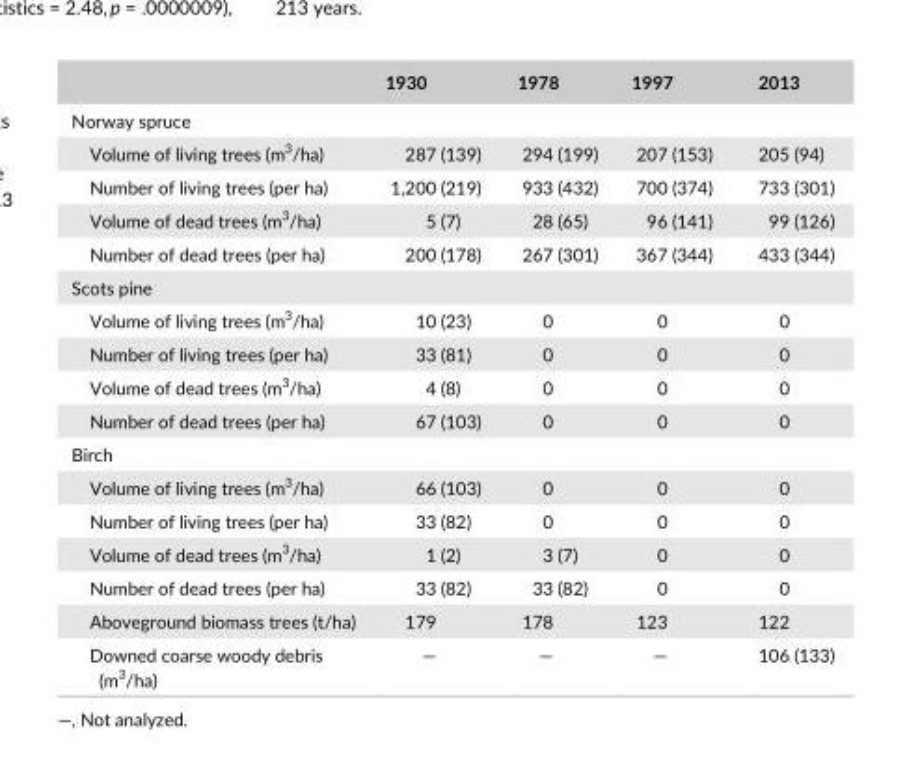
<table><thead><tr><td></td><td>1930</td><td>1978</td><td>1997</td><td>2013</td></tr></thead><tbody><tr><td colspan="5">Norway spruce</td></tr><tr><td>Volume of living trees (m<sup>3</sup>/ha)</td><td>287 (139)</td><td>294 (199)</td><td>207 (153)</td><td>205 (94)</td></tr><tr><td>Number of living trees (per ha)</td><td>1,200 (219)</td><td>933 (432)</td><td>700 (374)</td><td>733 (301)</td></tr><tr><td>Volume of dead trees (m<sup>3</sup>/ha)</td><td>5 (7)</td><td>28 (65)</td><td>96 (141)</td><td>99 (126)</td></tr><tr><td>Number of dead trees (per ha)</td><td>200 (178)</td><td>267 (301)</td><td>367 (344)</td><td>433 (344)</td></tr><tr><td colspan="5">Scots pine</td></tr><tr><td>Volume of living trees (m<sup>3</sup>/ha)</td><td>10 (23)</td><td>0</td><td>0</td><td>0</td></tr><tr><td>Number of living trees (per ha)</td><td>33 (81)</td><td>0</td><td>0</td><td>0</td></tr><tr><td>Volume of dead trees (m<sup>3</sup>/ha)</td><td>4 (8)</td><td>0</td><td>0</td><td>0</td></tr><tr><td>Number of dead trees (per ha)</td><td>67 (103)</td><td>0</td><td>0</td><td>0</td></tr><tr><td colspan="5">Birch</td></tr><tr><td>Volume of living trees (m<sup>3</sup>/ha)</td><td>66 (103)</td><td>0</td><td>0</td><td>0</td></tr><tr><td>Number of living trees (per ha)</td><td>33 (82)</td><td>0</td><td>0</td><td>0</td></tr><tr><td>Volume of dead trees (m<sup>3</sup>/ha)</td><td>1 (2)</td><td>3 (7)</td><td>0</td><td>0</td></tr><tr><td>Number of dead trees (per ha)</td><td>33 (82)</td><td>33 (82)</td><td>0</td><td>0</td></tr><tr><td>Aboveground biomass trees (t/ha)</td><td>179</td><td>178</td><td>123</td><td>122</td></tr><tr><td>Downed coarse woody debris (m<sup>3</sup>/ha)</td><td>—</td><td>—</td><td>—</td><td>106 (133)</td></tr></tbody></table>